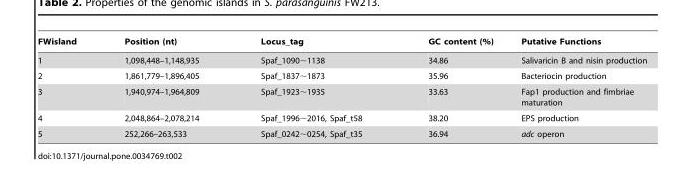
<table><thead><tr><td>FWisland</td><td>Position (nt)</td><td>Locus_tag</td><td>GC content (%)</td><td>Putative Functions</td></tr></thead><tbody><tr><td>1</td><td>1,098,448–1,148,935</td><td>Spaf_1090∼1138</td><td>34.86</td><td>Salivaricin B and nisin production</td></tr><tr><td>2</td><td>1,861,779–1,896,405</td><td>Spaf_1837∼1873</td><td>35.96</td><td>Bacteriocin production</td></tr><tr><td>3</td><td>1,940,974–1,964,809</td><td>Spaf_1923∼1935</td><td>33.63</td><td>Fap1 production and fimbriae maturation</td></tr><tr><td>4</td><td>2,048,864–2,078,214</td><td>Spaf_1996∼2016, Spaf_t58</td><td>38.20</td><td>EPS production</td></tr><tr><td>5</td><td>252,266–263,533</td><td>Spaf_0242∼0254, Spaf_t35</td><td>36.94</td><td>adc operon</td></tr></tbody></table>